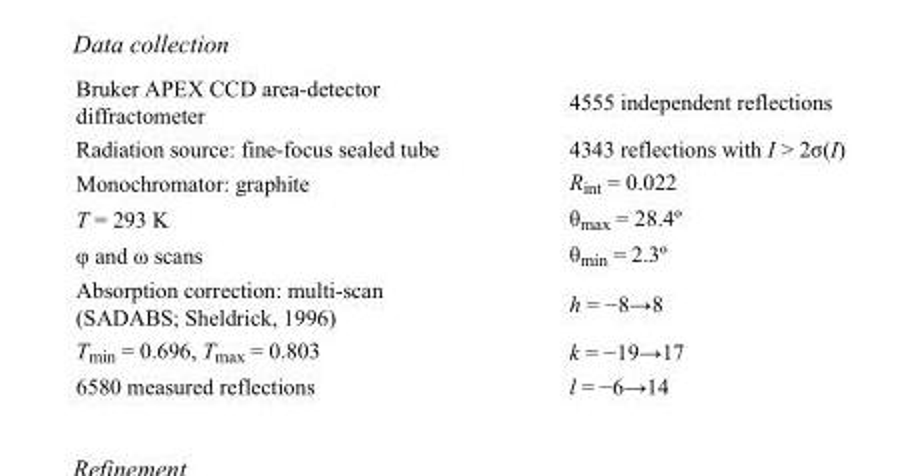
<table><tbody><tr><td>Bruker APEX CCD area-detector diffractometer</td><td>4555 independent reflections</td></tr><tr><td>Radiation source: fine-focus sealed tube</td><td>4343 reflections with I &gt; 2σ(I)</td></tr><tr><td>Monochromator: graphite</td><td>R<sub>int</sub> = 0.022</td></tr><tr><td>T = 293 K</td><td>θ<sub>max</sub> = 28.4º</td></tr><tr><td>φ and ω scans</td><td>θ<sub>min</sub> = 2.3º</td></tr><tr><td>Absorption correction: multi-scan (SADABS; Sheldrick, 1996)</td><td>h = −8→8</td></tr><tr><td>T<sub>min</sub> = 0.696, T<sub>max</sub> = 0.803</td><td>k = −19→17</td></tr><tr><td>6580 measured reflections</td><td>l = −6→14</td></tr></tbody></table>